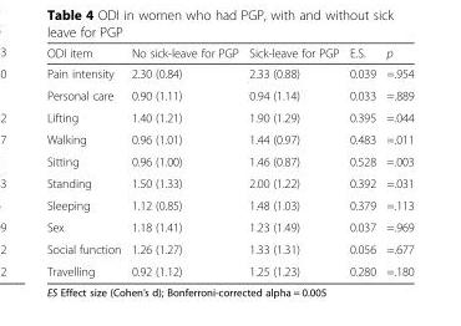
<table><thead><tr><td>ODI item</td><td>No sick-leave for PGP</td><td>Sick-leave for PGP</td><td>E.S.</td><td>p</td></tr></thead><tbody><tr><td>Pain intensity</td><td>2.30 (0.84)</td><td>2.33 (0.88)</td><td>0.039</td><td>=.954</td></tr><tr><td>Personal care</td><td>0.90 (1.11)</td><td>0.94 (1.14)</td><td>0.033</td><td>=.889</td></tr><tr><td>Lifting</td><td>1.40 (1.21)</td><td>1.90 (1.29)</td><td>0.395</td><td>=.044</td></tr><tr><td>Walking</td><td>0.96 (1.01)</td><td>1.44 (0.97)</td><td>0.483</td><td>=.011</td></tr><tr><td>Sitting</td><td>0.96 (1.00)</td><td>1.46 (0.87)</td><td>0.528</td><td>=.003</td></tr><tr><td>Standing</td><td>1.50 (1.33)</td><td>2.00 (1.22)</td><td>0.392</td><td>=.031</td></tr><tr><td>Sleeping</td><td>1.12 (0.85)</td><td>1.48 (1.03)</td><td>0.379</td><td>=.113</td></tr><tr><td>Sex</td><td>1.18 (1.41)</td><td>1.23 (1.49)</td><td>0.037</td><td>=.969</td></tr><tr><td>Social function</td><td>1.26 (1.27)</td><td>1.33 (1.31)</td><td>0.056</td><td>=.677</td></tr><tr><td>Travelling</td><td>0.92 (1.12)</td><td>1.25 (1.23)</td><td>0.280</td><td>=.180</td></tr></tbody></table>